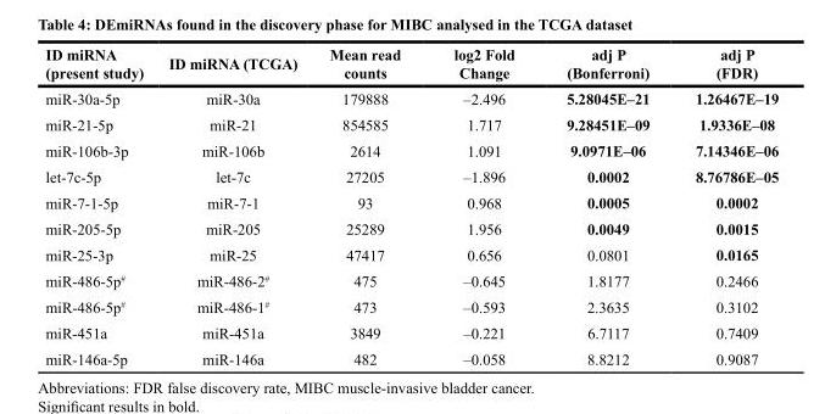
<table><thead><tr><td>ID miRNA (present study)</td><td>ID miRNA (TCGA)</td><td>Mean read counts</td><td>log2 Fold Change</td><td>adj P (Bonferroni)</td><td>adj P (FDR)</td></tr></thead><tbody><tr><td>miR-30a-5p</td><td>miR-30a</td><td>179888</td><td>–2.496</td><td>5.28045E–21</td><td>1.26467E–19</td></tr><tr><td>miR-21-5p</td><td>miR-21</td><td>854585</td><td>1.717</td><td>9.28451E–09</td><td>1.9336E–08</td></tr><tr><td>miR-106b-3p</td><td>miR-106b</td><td>2614</td><td>1.091</td><td>9.0971E–06</td><td>7.14346E–06</td></tr><tr><td>let-7c-5p</td><td>let-7c</td><td>27205</td><td>–1.896</td><td>0.0002</td><td>8.76786E–05</td></tr><tr><td>miR-7-1-5p</td><td>miR-7-1</td><td>93</td><td>0.968</td><td>0.0005</td><td>0.0002</td></tr><tr><td>miR-205-5p</td><td>miR-205</td><td>25289</td><td>1.956</td><td>0.0049</td><td>0.0015</td></tr><tr><td>miR-25-3p</td><td>miR-25</td><td>47417</td><td>0.656</td><td>0.0801</td><td>0.0165</td></tr><tr><td>miR-486-5p<sup>#</sup></td><td>miR-486-2<sup>#</sup></td><td>475</td><td>–0.645</td><td>1.8177</td><td>0.2466</td></tr><tr><td>miR-486-5p<sup>#</sup></td><td>miR-486-1<sup>#</sup></td><td>473</td><td>–0.593</td><td>2.3635</td><td>0.3102</td></tr><tr><td>miR-451a</td><td>miR-451a</td><td>3849</td><td>–0.221</td><td>6.7117</td><td>0.7409</td></tr><tr><td>miR-146a-5p</td><td>miR-146a</td><td>482</td><td>–0.058</td><td>8.8212</td><td>0.9087</td></tr></tbody></table>